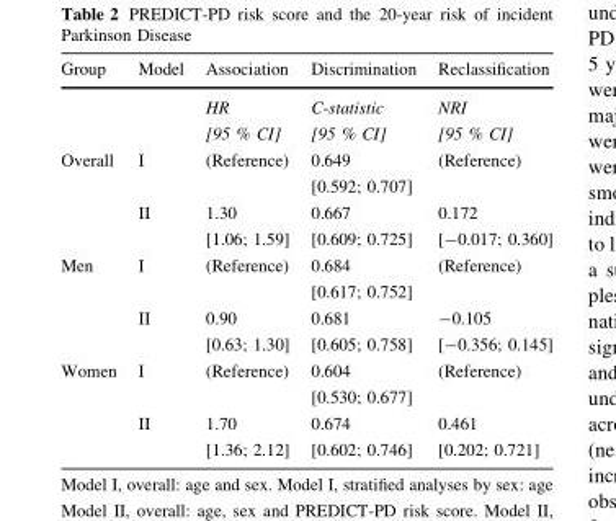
<table><thead><tr><td>Group</td><td>Model</td><td>Association</td><td>Discrimination</td><td>Reclassification</td></tr></thead><tbody><tr><td></td><td></td><td>HR [95 % CI]</td><td>C-statistic [95 % CI]</td><td>NRI [95 % CI]</td></tr><tr><td rowspan="2">Overall</td><td>I</td><td>(Reference)</td><td>0.649 [0.592; 0.707]</td><td>(Reference)</td></tr><tr><td>II</td><td>1.30 [1.06; 1.59]</td><td>0.667 [0.609; 0.725]</td><td>0.172 [-0.017; 0.360]</td></tr><tr><td rowspan="2">Men</td><td>I</td><td>(Reference)</td><td>0.684 [0.617; 0.752]</td><td>(Reference)</td></tr><tr><td>II</td><td>0.90 [0.63; 1.30]</td><td>0.681 [0.605; 0.758]</td><td>-0.105 [-0.356; 0.145]</td></tr><tr><td rowspan="2">Women</td><td>I</td><td>(Reference)</td><td>0.604 [0.530; 0.677]</td><td>(Reference)</td></tr><tr><td>II</td><td>1.70 [1.36; 2.12]</td><td>0.674 [0.602; 0.746]</td><td>0.461 [0.202; 0.721]</td></tr></tbody></table>